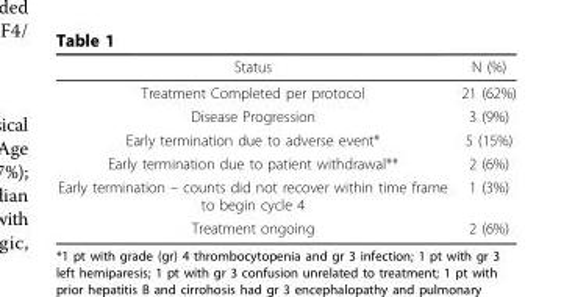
<table><thead><tr><td>Status</td><td>N (%)</td></tr></thead><tbody><tr><td>Treatment Completed per protocol</td><td>21 (62%)</td></tr><tr><td>Disease Progression</td><td>3 (9%)</td></tr><tr><td>Early termination due to adverse event*</td><td>5 (15%)</td></tr><tr><td>Early termination due to patient withdrawal**</td><td>2 (6%)</td></tr><tr><td>Early termination – counts did not recover within time frame to begin cycle 4</td><td>1 (3%)</td></tr><tr><td>Treatment ongoing</td><td>2 (6%)</td></tr></tbody></table>